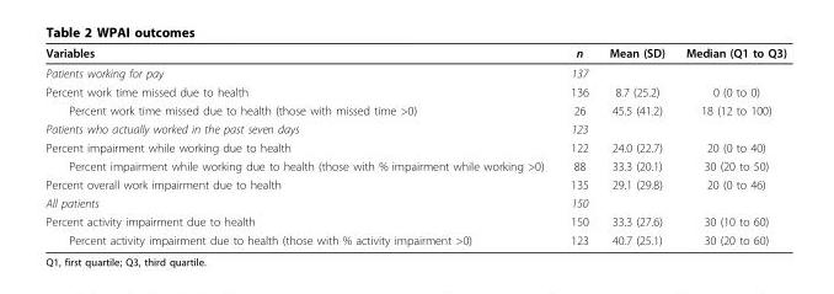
<table><thead><tr><td>Variables</td><td>n</td><td>Mean (SD)</td><td>Median (Q1 to Q3)</td></tr></thead><tbody><tr><td>Patients working for pay</td><td>137</td><td></td><td></td></tr><tr><td>Percent work time missed due to health</td><td>136</td><td>8.7 (25.2)</td><td>0 (0 to 0)</td></tr><tr><td>Percent work time missed due to health (those with missed time &gt;0)</td><td>26</td><td>45.5 (41.2)</td><td>18 (12 to 100)</td></tr><tr><td>Patients who actually worked in the past seven days</td><td>123</td><td></td><td></td></tr><tr><td>Percent impairment while working due to health</td><td>122</td><td>24.0 (22.7)</td><td>20 (0 to 40)</td></tr><tr><td>Percent impairment while working due to health (those with % impairment while working &gt;0)</td><td>88</td><td>33.3 (20.1)</td><td>30 (20 to 50)</td></tr><tr><td>Percent overall work impairment due to health</td><td>135</td><td>29.1 (29.8)</td><td>20 (0 to 46)</td></tr><tr><td>All patients</td><td>150</td><td></td><td></td></tr><tr><td>Percent activity impairment due to health</td><td>150</td><td>33.3 (27.6)</td><td>30 (10 to 60)</td></tr><tr><td>Percent activity impairment due to health (those with % activity impairment &gt;0)</td><td>123</td><td>40.7 (25.1)</td><td>30 (20 to 60)</td></tr></tbody></table>